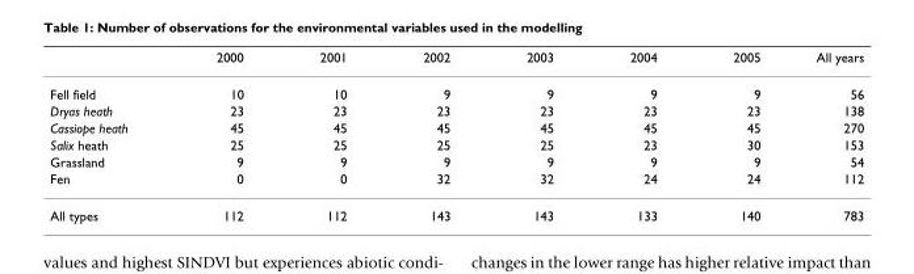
<table><thead><tr><td></td><td>2000</td><td>2001</td><td>2002</td><td>2003</td><td>2004</td><td>2005</td><td>All years</td></tr></thead><tbody><tr><td>Fell field</td><td>10</td><td>10</td><td>9</td><td>9</td><td>9</td><td>9</td><td>56</td></tr><tr><td>Dryas heath</td><td>23</td><td>23</td><td>23</td><td>23</td><td>23</td><td>23</td><td>138</td></tr><tr><td>Cassiope heath</td><td>45</td><td>45</td><td>45</td><td>45</td><td>45</td><td>45</td><td>270</td></tr><tr><td>Salix heath</td><td>25</td><td>25</td><td>25</td><td>25</td><td>23</td><td>30</td><td>153</td></tr><tr><td>Grassland</td><td>9</td><td>9</td><td>9</td><td>9</td><td>9</td><td>9</td><td>54</td></tr><tr><td>Fen</td><td>0</td><td>0</td><td>32</td><td>32</td><td>24</td><td>24</td><td>112</td></tr><tr><td>All types</td><td>112</td><td>112</td><td>143</td><td>143</td><td>133</td><td>140</td><td>783</td></tr></tbody></table>